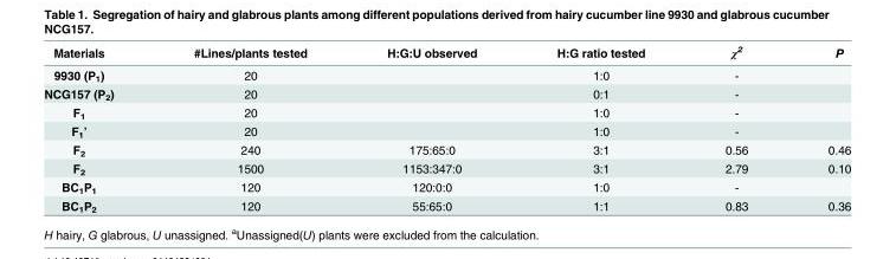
<table><thead><tr><td>Materials</td><td>#Lines/plants tested</td><td>H:G:U observed</td><td>H:G ratio tested</td><td>χ<sup>2</sup></td><td>P</td></tr></thead><tbody><tr><td>9930 (P<sub>1</sub>)</td><td>20</td><td></td><td>1:0</td><td>-</td><td></td></tr><tr><td>NCG157 (P<sub>2</sub>)</td><td>20</td><td></td><td>0:1</td><td>-</td><td></td></tr><tr><td>F<sub>1</sub></td><td>20</td><td></td><td>1:0</td><td>-</td><td></td></tr><tr><td>F<sub>1</sub>’</td><td>20</td><td></td><td>1:0</td><td>-</td><td></td></tr><tr><td>F<sub>2</sub></td><td>240</td><td>175:65:0</td><td>3:1</td><td>0.56</td><td>0.46</td></tr><tr><td>F<sub>2</sub></td><td>1500</td><td>1153:347:0</td><td>3:1</td><td>2.79</td><td>0.10</td></tr><tr><td>BC<sub>1</sub>P<sub>1</sub></td><td>120</td><td>120:0:0</td><td>1:0</td><td>-</td><td></td></tr><tr><td>BC<sub>1</sub>P<sub>2</sub></td><td>120</td><td>55:65:0</td><td>1:1</td><td>0.83</td><td>0.36</td></tr></tbody></table>